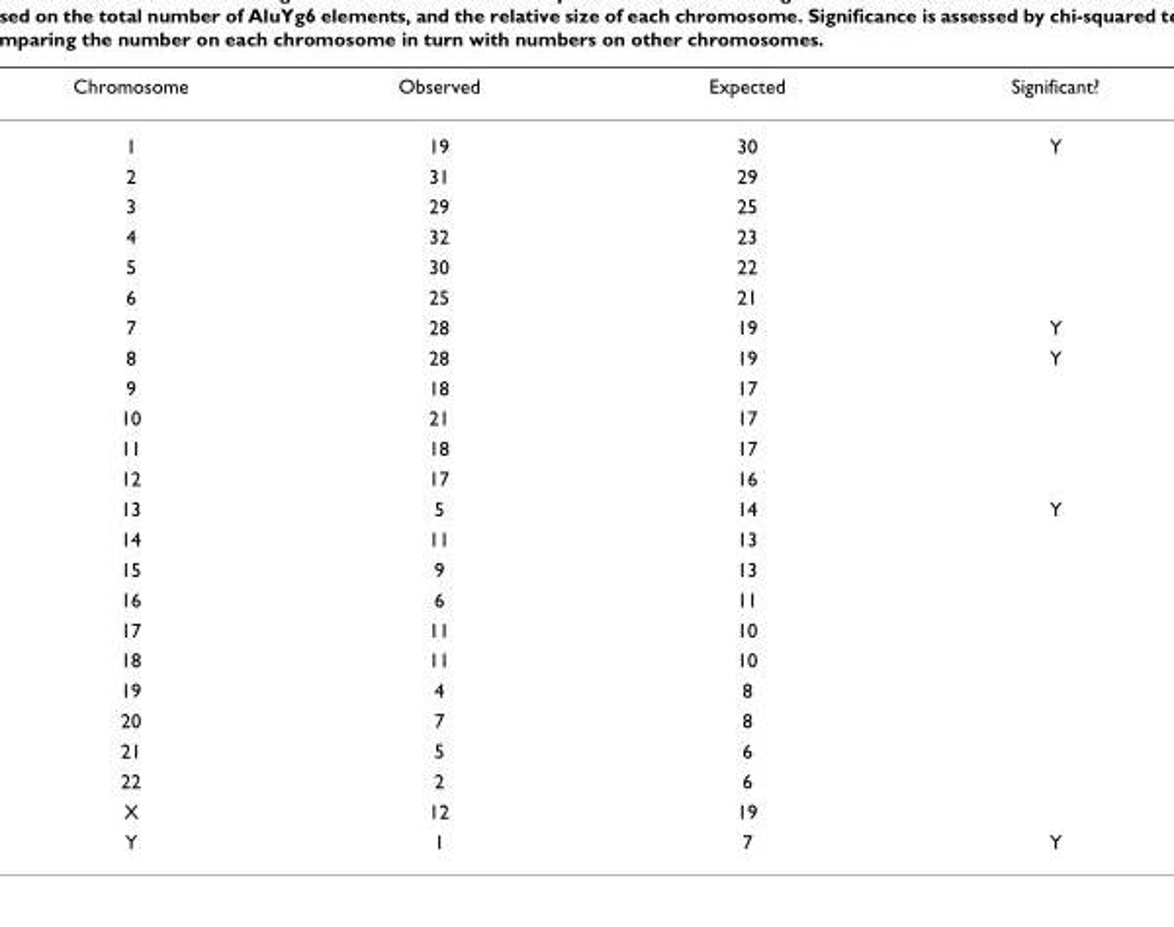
<table><thead><tr><td>Chromosome</td><td>Observed</td><td>Expected</td><td>Significant?</td></tr></thead><tbody><tr><td>1</td><td>19</td><td>30</td><td>Y</td></tr><tr><td>2</td><td>31</td><td>29</td><td></td></tr><tr><td>3</td><td>29</td><td>25</td><td></td></tr><tr><td>4</td><td>32</td><td>23</td><td></td></tr><tr><td>5</td><td>30</td><td>22</td><td></td></tr><tr><td>6</td><td>25</td><td>21</td><td></td></tr><tr><td>7</td><td>28</td><td>19</td><td>Y</td></tr><tr><td>8</td><td>28</td><td>19</td><td>Y</td></tr><tr><td>9</td><td>18</td><td>17</td><td></td></tr><tr><td>10</td><td>21</td><td>17</td><td></td></tr><tr><td>11</td><td>18</td><td>17</td><td></td></tr><tr><td>12</td><td>17</td><td>16</td><td></td></tr><tr><td>13</td><td>5</td><td>14</td><td>Y</td></tr><tr><td>14</td><td>11</td><td>13</td><td></td></tr><tr><td>15</td><td>9</td><td>13</td><td></td></tr><tr><td>16</td><td>6</td><td>11</td><td></td></tr><tr><td>17</td><td>11</td><td>10</td><td></td></tr><tr><td>18</td><td>11</td><td>10</td><td></td></tr><tr><td>19</td><td>4</td><td>8</td><td></td></tr><tr><td>20</td><td>7</td><td>8</td><td></td></tr><tr><td>21</td><td>5</td><td>6</td><td></td></tr><tr><td>22</td><td>2</td><td>6</td><td></td></tr><tr><td>X</td><td>12</td><td>19</td><td></td></tr><tr><td>Y</td><td>1</td><td>7</td><td>Y</td></tr></tbody></table>